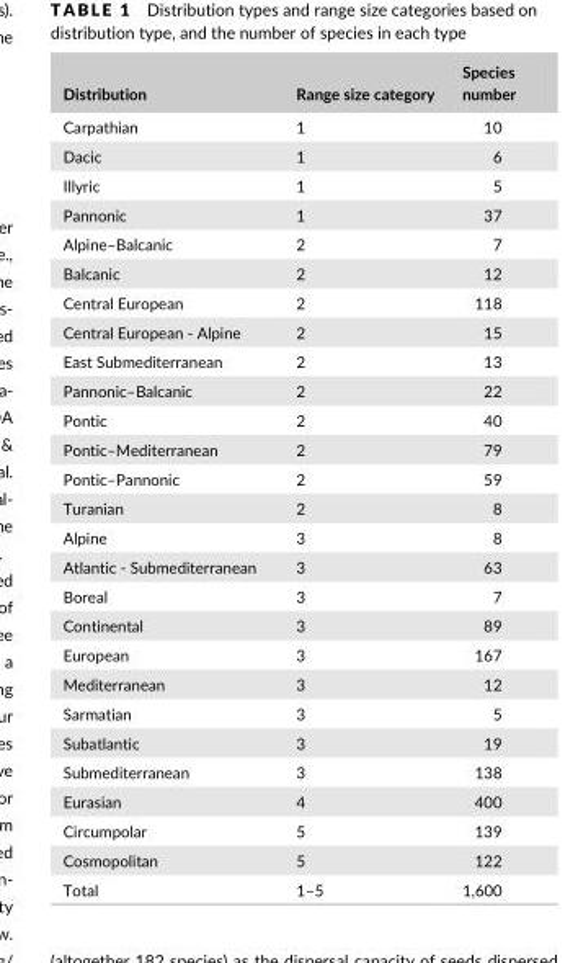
<table><thead><tr><td>Distribution</td><td>Range size category</td><td>Species number</td></tr></thead><tbody><tr><td>Carpathian</td><td>1</td><td>10</td></tr><tr><td>Dacic</td><td>1</td><td>6</td></tr><tr><td>Illyric</td><td>1</td><td>5</td></tr><tr><td>Pannonic</td><td>1</td><td>37</td></tr><tr><td>Alpine–Balcanic</td><td>2</td><td>7</td></tr><tr><td>Balcanic</td><td>2</td><td>12</td></tr><tr><td>Central European</td><td>2</td><td>118</td></tr><tr><td>Central European - Alpine</td><td>2</td><td>15</td></tr><tr><td>East Submediterranean</td><td>2</td><td>13</td></tr><tr><td>Pannonic–Balcanic</td><td>2</td><td>22</td></tr><tr><td>Pontic</td><td>2</td><td>40</td></tr><tr><td>Pontic–Mediterranean</td><td>2</td><td>79</td></tr><tr><td>Pontic–Pannonic</td><td>2</td><td>59</td></tr><tr><td>Turanian</td><td>2</td><td>8</td></tr><tr><td>Alpine</td><td>3</td><td>8</td></tr><tr><td>Atlantic - Submediterranean</td><td>3</td><td>63</td></tr><tr><td>Boreal</td><td>3</td><td>7</td></tr><tr><td>Continental</td><td>3</td><td>89</td></tr><tr><td>European</td><td>3</td><td>167</td></tr><tr><td>Mediterranean</td><td>3</td><td>12</td></tr><tr><td>Sarmatian</td><td>3</td><td>5</td></tr><tr><td>Subatlantic</td><td>3</td><td>19</td></tr><tr><td>Submediterranean</td><td>3</td><td>138</td></tr><tr><td>Eurasian</td><td>4</td><td>400</td></tr><tr><td>Circumpolar</td><td>5</td><td>139</td></tr><tr><td>Cosmopolitan</td><td>5</td><td>122</td></tr><tr><td>Total</td><td>1–5</td><td>1,600</td></tr></tbody></table>